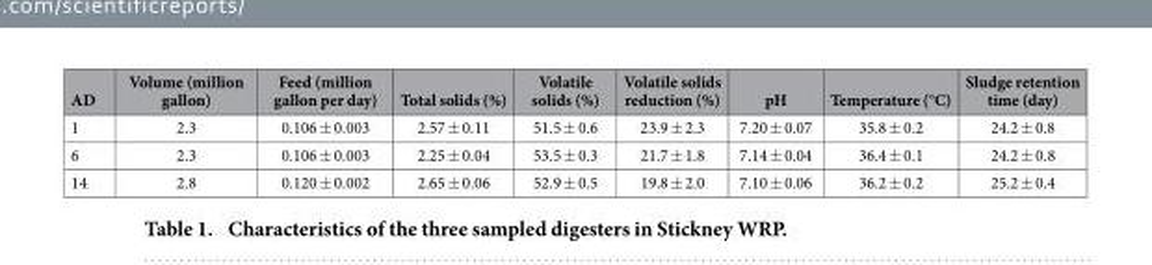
<table><thead><tr><td>AD</td><td>Volume (million gallon)</td><td>Feed (million gallon per day)</td><td>Total solids (%)</td><td>Volatile solids (%)</td><td>Volatile solids reduction (%)</td><td>pH</td><td>Temperature (°C)</td><td>Sludge retention time (day)</td></tr></thead><tbody><tr><td>1</td><td>2.3</td><td>0.106 ± 0.003</td><td>2.57 ± 0.11</td><td>51.5 ± 0.6</td><td>23.9 ± 2.3</td><td>7.20 ± 0.07</td><td>35.8 ± 0.2</td><td>24.2 ± 0.8</td></tr><tr><td>6</td><td>2.3</td><td>0.106 ± 0.003</td><td>2.25 ± 0.04</td><td>53.5 ± 0.3</td><td>21.7 ± 1.8</td><td>7.14 ± 0.04</td><td>36.4 ± 0.1</td><td>24.2 ± 0.8</td></tr><tr><td>14</td><td>2.8</td><td>0.120 ± 0.002</td><td>2.65 ± 0.06</td><td>52.9 ± 0.5</td><td>19.8 ± 2.0</td><td>7.10 ± 0.06</td><td>36.2 ± 0.2</td><td>25.2 ± 0.4</td></tr></tbody></table>